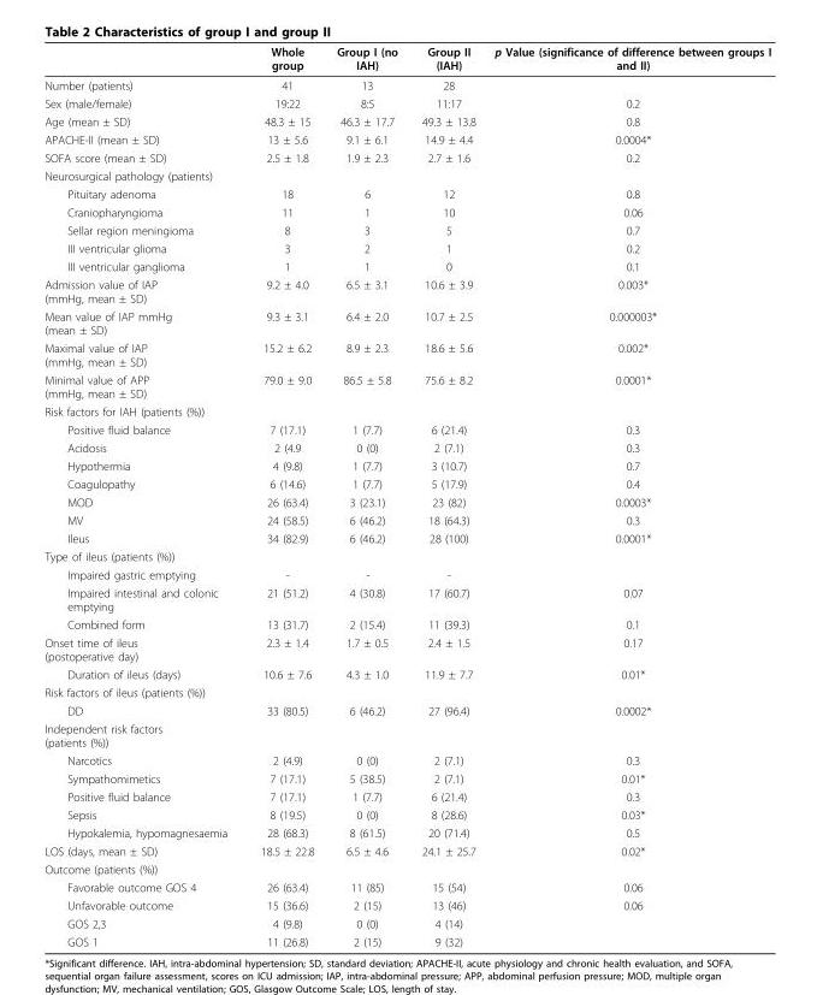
<table><thead><tr><td></td><td>Whole group</td><td>Group I (no IAH)</td><td>Group II (IAH)</td><td>p Value (significance of difference between groups I and II)</td></tr></thead><tbody><tr><td>Number (patients)</td><td>41</td><td>13</td><td>28</td><td></td></tr><tr><td>Sex (male/female)</td><td>19:22</td><td>8:5</td><td>11:17</td><td>0.2</td></tr><tr><td>Age (mean ± SD)</td><td>48.3 ± 15</td><td>46.3 ± 17.7</td><td>49.3 ± 13.8</td><td>0.8</td></tr><tr><td>APACHE-II (mean ± SD)</td><td>13 ± 5.6</td><td>9.1 ± 6.1</td><td>14.9 ± 4.4</td><td>0.0004*</td></tr><tr><td>SOFA score (mean ± SD)</td><td>2.5 ± 1.8</td><td>1.9 ± 2.3</td><td>2.7 ± 1.6</td><td>0.2</td></tr><tr><td colspan="5">Neurosurgical pathology (patients)</td></tr><tr><td>Pituitary adenoma</td><td>18</td><td>6</td><td>12</td><td>0.8</td></tr><tr><td>Craniopharyngioma</td><td>11</td><td>1</td><td>10</td><td>0.06</td></tr><tr><td>Sellar region meningioma</td><td>8</td><td>3</td><td>5</td><td>0.7</td></tr><tr><td>III ventricular glioma</td><td>3</td><td>2</td><td>1</td><td>0.2</td></tr><tr><td>III ventricular ganglioma</td><td>1</td><td>1</td><td>0</td><td>0.1</td></tr><tr><td>Admission value of IAP (mmHg, mean ± SD)</td><td>9.2 ± 4.0</td><td>6.5 ± 3.1</td><td>10.6 ± 3.9</td><td>0.003*</td></tr><tr><td>Mean value of IAP mmHg (mean ± SD)</td><td>9.3 ± 3.1</td><td>6.4 ± 2.0</td><td>10.7 ± 2.5</td><td>0.000003*</td></tr><tr><td>Maximal value of IAP (mmHg, mean ± SD)</td><td>15.2 ± 6.2</td><td>8.9 ± 2.3</td><td>18.6 ± 5.6</td><td>0.002*</td></tr><tr><td>Minimal value of APP (mmHg, mean ± SD)</td><td>79.0 ± 9.0</td><td>86.5 ± 5.8</td><td>75.6 ± 8.2</td><td>0.0001*</td></tr><tr><td colspan="5">Risk factors for IAH (patients (%))</td></tr><tr><td>Positive fluid balance</td><td>7 (17.1)</td><td>1 (7.7)</td><td>6 (21.4)</td><td>0.3</td></tr><tr><td>Acidosis</td><td>2 (4.9</td><td>0 (0)</td><td>2 (7.1)</td><td>0.3</td></tr><tr><td>Hypothermia</td><td>4 (9.8)</td><td>1 (7.7)</td><td>3 (10.7)</td><td>0.7</td></tr><tr><td>Coagulopathy</td><td>6 (14.6)</td><td>1 (7.7)</td><td>5 (17.9)</td><td>0.4</td></tr><tr><td>MOD</td><td>26 (63.4)</td><td>3 (23.1)</td><td>23 (82)</td><td>0.0003*</td></tr><tr><td>MV</td><td>24 (58.5)</td><td>6 (46.2)</td><td>18 (64.3)</td><td>0.3</td></tr><tr><td>Ileus</td><td>34 (82.9)</td><td>6 (46.2)</td><td>28 (100)</td><td>0.0001*</td></tr><tr><td colspan="5">Type of ileus (patients (%))</td></tr><tr><td>Impaired gastric emptying</td><td>-</td><td>-</td><td>-</td><td></td></tr><tr><td>Impaired intestinal and colonic emptying</td><td>21 (51.2)</td><td>4 (30.8)</td><td>17 (60.7)</td><td>0.07</td></tr><tr><td>Combined form</td><td>13 (31.7)</td><td>2 (15.4)</td><td>11 (39.3)</td><td>0.1</td></tr><tr><td>Onset time of ileus (postoperative day)</td><td>2.3 ± 1.4</td><td>1.7 ± 0.5</td><td>2.4 ± 1.5</td><td>0.17</td></tr><tr><td>Duration of ileus (days)</td><td>10.6 ± 7.6</td><td>4.3 ± 1.0</td><td>11.9 ± 7.7</td><td>0.01*</td></tr><tr><td colspan="5">Risk factors of ileus (patients (%))</td></tr><tr><td>DD</td><td>33 (80.5)</td><td>6 (46.2)</td><td>27 (96.4)</td><td>0.0002*</td></tr><tr><td colspan="5">Independent risk factors (patients (%))</td></tr><tr><td>Narcotics</td><td>2 (4.9)</td><td>0 (0)</td><td>2 (7.1)</td><td>0.3</td></tr><tr><td>Sympathomimetics</td><td>7 (17.1)</td><td>5 (38.5)</td><td>2 (7.1)</td><td>0.01*</td></tr><tr><td>Positive fluid balance</td><td>7 (17.1)</td><td>1 (7.7)</td><td>6 (21.4)</td><td>0.3</td></tr><tr><td>Sepsis</td><td>8 (19.5)</td><td>0 (0)</td><td>8 (28.6)</td><td>0.03*</td></tr><tr><td>Hypokalemia, hypomagnesaemia</td><td>28 (68.3)</td><td>8 (61.5)</td><td>20 (71.4)</td><td>0.5</td></tr><tr><td>LOS (days, mean ± SD)</td><td>18.5 ± 22.8</td><td>6.5 ± 4.6</td><td>24.1 ± 25.7</td><td>0.02*</td></tr><tr><td colspan="5">Outcome (patients (%))</td></tr><tr><td>Favorable outcome GOS 4</td><td>26 (63.4)</td><td>11 (85)</td><td>15 (54)</td><td>0.06</td></tr><tr><td>Unfavorable outcome</td><td>15 (36.6)</td><td>2 (15)</td><td>13 (46)</td><td>0.06</td></tr><tr><td>GOS 2,3</td><td>4 (9.8)</td><td>0 (0)</td><td>4 (14)</td><td></td></tr><tr><td>GOS 1</td><td>11 (26.8)</td><td>2 (15)</td><td>9 (32)</td><td></td></tr></tbody></table>